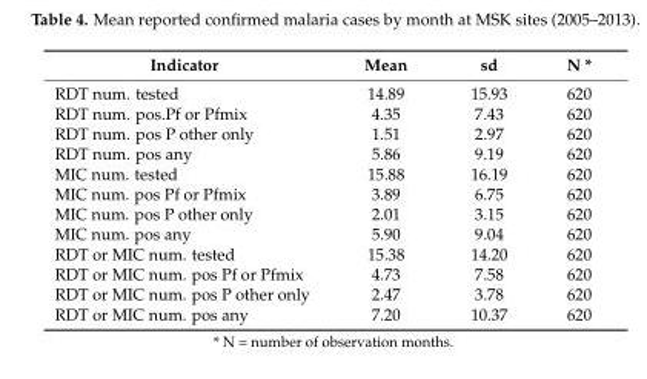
<table><thead><tr><td>Indicator</td><td>Mean</td><td>sd</td><td>N *</td></tr></thead><tbody><tr><td>RDT num. tested</td><td>14.89</td><td>15.93</td><td>620</td></tr><tr><td>RDT num. pos.Pf or Pfmix</td><td>4.35</td><td>7.43</td><td>620</td></tr><tr><td>RDT num. pos P other only</td><td>1.51</td><td>2.97</td><td>620</td></tr><tr><td>RDT num. pos any</td><td>5.86</td><td>9.19</td><td>620</td></tr><tr><td>MIC num. tested</td><td>15.88</td><td>16.19</td><td>620</td></tr><tr><td>MIC num. pos Pf or Pfmix</td><td>3.89</td><td>6.75</td><td>620</td></tr><tr><td>MIC num. pos P other only</td><td>2.01</td><td>3.15</td><td>620</td></tr><tr><td>MIC num. pos any</td><td>5.90</td><td>9.04</td><td>620</td></tr><tr><td>RDT or MIC num. tested</td><td>15.38</td><td>14.20</td><td>620</td></tr><tr><td>RDT or MIC num. pos Pf or Pfmix</td><td>4.73</td><td>7.58</td><td>620</td></tr><tr><td>RDT or MIC num. pos P other only</td><td>2.47</td><td>3.78</td><td>620</td></tr><tr><td>RDT or MIC num. pos any</td><td>7.20</td><td>10.37</td><td>620</td></tr></tbody></table>